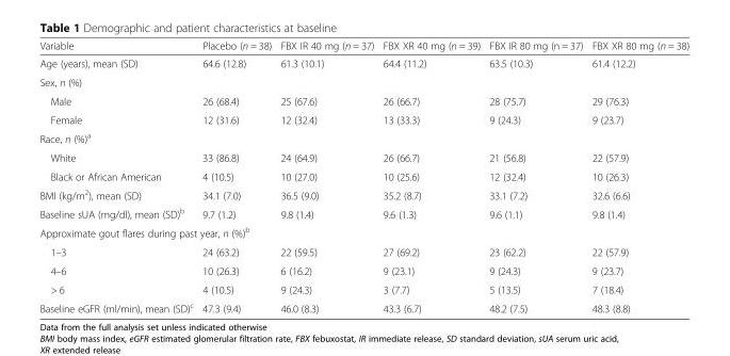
<table><thead><tr><td>Variable</td><td>Placebo (n = 38)</td><td>FBX IR 40 mg (n = 37)</td><td>FBX XR 40 mg (n = 39)</td><td>FBX IR 80 mg (n = 37)</td><td>FBX XR 80 mg (n = 38)</td></tr></thead><tbody><tr><td>Age (years), mean (SD)</td><td>64.6 (12.8)</td><td>61.3 (10.1)</td><td>64.4 (11.2)</td><td>63.5 (10.3)</td><td>61.4 (12.2)</td></tr><tr><td colspan="6">Sex, n (%)</td></tr><tr><td>Male</td><td>26 (68.4)</td><td>25 (67.6)</td><td>26 (66.7)</td><td>28 (75.7)</td><td>29 (76.3)</td></tr><tr><td>Female</td><td>12 (31.6)</td><td>12 (32.4)</td><td>13 (33.3)</td><td>9 (24.3)</td><td>9 (23.7)</td></tr><tr><td colspan="6">Race, n (%)<sup>a</sup></td></tr><tr><td>White</td><td>33 (86.8)</td><td>24 (64.9)</td><td>26 (66.7)</td><td>21 (56.8)</td><td>22 (57.9)</td></tr><tr><td>Black or African American</td><td>4 (10.5)</td><td>10 (27.0)</td><td>10 (25.6)</td><td>12 (32.4)</td><td>10 (26.3)</td></tr><tr><td>BMI (kg/m<sup>2</sup>), mean (SD)</td><td>34.1 (7.0)</td><td>36.5 (9.0)</td><td>35.2 (8.7)</td><td>33.1 (7.2)</td><td>32.6 (6.6)</td></tr><tr><td>Baseline sUA (mg/dl), mean (SD)<sup>b</sup></td><td>9.7 (1.2)</td><td>9.8 (1.4)</td><td>9.6 (1.3)</td><td>9.6 (1.1)</td><td>9.8 (1.4)</td></tr><tr><td colspan="6">Approximate gout flares during past year, n (%)<sup>b</sup></td></tr><tr><td>1–3</td><td>24 (63.2)</td><td>22 (59.5)</td><td>27 (69.2)</td><td>23 (62.2)</td><td>22 (57.9)</td></tr><tr><td>4–6</td><td>10 (26.3)</td><td>6 (16.2)</td><td>9 (23.1)</td><td>9 (24.3)</td><td>9 (23.7)</td></tr><tr><td>&gt; 6</td><td>4 (10.5)</td><td>9 (24.3)</td><td>3 (7.7)</td><td>5 (13.5)</td><td>7 (18.4)</td></tr><tr><td>Baseline eGFR (ml/min), mean (SD)<sup>c</sup></td><td>47.3 (9.4)</td><td>46.0 (8.3)</td><td>43.3 (6.7)</td><td>48.2 (7.5)</td><td>48.3 (8.8)</td></tr></tbody></table>